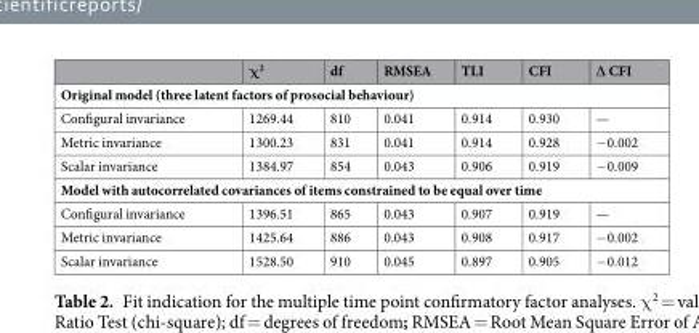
<table><thead><tr><td></td><td>χ<sup>2</sup></td><td>df</td><td>RMSEA</td><td>TLI</td><td>CFI</td><td>∆ CFI</td></tr></thead><tbody><tr><td colspan="7">Original model (three latent factors of prosocial behaviour)</td></tr><tr><td>Configural invariance</td><td>1269.44</td><td>810</td><td>0.041</td><td>0.914</td><td>0.930</td><td>—</td></tr><tr><td>Metric invariance</td><td>1300.23</td><td>831</td><td>0.041</td><td>0.914</td><td>0.928</td><td>−0.002</td></tr><tr><td>Scalar invariance</td><td>1384.97</td><td>854</td><td>0.043</td><td>0.906</td><td>0.919</td><td>−0.009</td></tr><tr><td colspan="7">Model with autocorrelated covariances of items constrained to be equal over time</td></tr><tr><td>Configural invariance</td><td>1396.51</td><td>865</td><td>0.043</td><td>0.907</td><td>0.919</td><td>—</td></tr><tr><td>Metric invariance</td><td>1425.64</td><td>886</td><td>0.043</td><td>0.908</td><td>0.917</td><td>−0.002</td></tr><tr><td>Scalar invariance</td><td>1528.50</td><td>910</td><td>0.045</td><td>0.897</td><td>0.905</td><td>−0.012</td></tr></tbody></table>